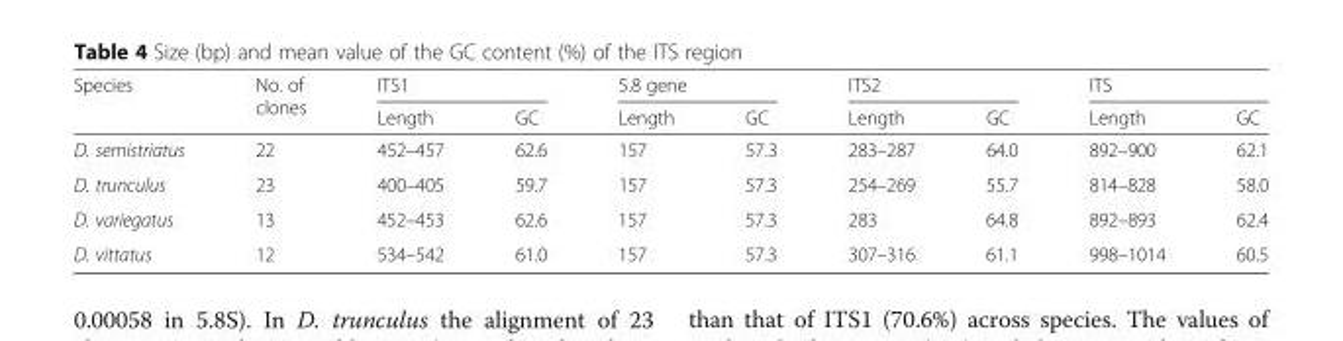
<table><thead><tr><td rowspan="2">Species</td><td rowspan="2">No. of clones</td><td colspan="2">ITS1</td><td colspan="2">5.8 gene</td><td colspan="2">ITS2</td><td colspan="2">ITS</td></tr><tr><td>Length</td><td>GC</td><td>Length</td><td>GC</td><td>Length</td><td>GC</td><td>Length</td><td>GC</td></tr></thead><tbody><tr><td>D. semistriatus</td><td>22</td><td>452–457</td><td>62.6</td><td>157</td><td>57.3</td><td>283–287</td><td>64.0</td><td>892–900</td><td>62.1</td></tr><tr><td>D. trunculus</td><td>23</td><td>400–405</td><td>59.7</td><td>157</td><td>57.3</td><td>254–269</td><td>55.7</td><td>814–828</td><td>58.0</td></tr><tr><td>D. variegatus</td><td>13</td><td>452–453</td><td>62.6</td><td>157</td><td>57.3</td><td>283</td><td>64.8</td><td>892–893</td><td>62.4</td></tr><tr><td>D. vittatus</td><td>12</td><td>534–542</td><td>61.0</td><td>157</td><td>57.3</td><td>307–316</td><td>61.1</td><td>998–1014</td><td>60.5</td></tr></tbody></table>